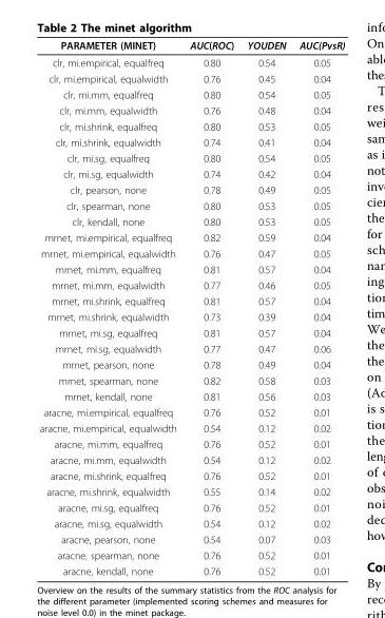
<table><thead><tr><td>PARAMETER (MINET)</td><td>AUC(ROC)</td><td>YOUDEN</td><td>AUC(PvsR)</td></tr></thead><tbody><tr><td>clr, mi.empirical, equalfreq</td><td>0.80</td><td>0.54</td><td>0.05</td></tr><tr><td>clr, mi.empirical, equalwidth</td><td>0.76</td><td>0.45</td><td>0.04</td></tr><tr><td>clr, mi.mm, equalfreq</td><td>0.80</td><td>0.54</td><td>0.05</td></tr><tr><td>clr, mi.mm, equalwidth</td><td>0.76</td><td>0.48</td><td>0.04</td></tr><tr><td>clr, mi.shrink, equalfreq</td><td>0.80</td><td>0.53</td><td>0.05</td></tr><tr><td>clr, mi.shrink, equalwidth</td><td>0.74</td><td>0.41</td><td>0.04</td></tr><tr><td>clr, mi.sg, equalfreq</td><td>0.80</td><td>0.54</td><td>0.05</td></tr><tr><td>clr, mi.sg, equalwidth</td><td>0.74</td><td>0.42</td><td>0.04</td></tr><tr><td>clr, pearson, none</td><td>0.78</td><td>0.49</td><td>0.05</td></tr><tr><td>clr, spearman, none</td><td>0.80</td><td>0.53</td><td>0.05</td></tr><tr><td>clr, kendall, none</td><td>0.80</td><td>0.53</td><td>0.05</td></tr><tr><td>mrnet, mi.empirical, equalfreq</td><td>0.82</td><td>0.59</td><td>0.04</td></tr><tr><td>mrnet, mi.empirical, equalwidth</td><td>0.76</td><td>0.47</td><td>0.05</td></tr><tr><td>mrnet, mi.mm, equalfreq</td><td>0.81</td><td>0.57</td><td>0.04</td></tr><tr><td>mrnet, mi.mm, equalwidth</td><td>0.77</td><td>0.46</td><td>0.05</td></tr><tr><td>mrnet, mi.shrink, equalfreq</td><td>0.81</td><td>0.57</td><td>0.04</td></tr><tr><td>mrnet, mi.shrink, equalwidth</td><td>0.73</td><td>0.39</td><td>0.04</td></tr><tr><td>mrnet, mi.sg, equalfreq</td><td>0.81</td><td>0.57</td><td>0.04</td></tr><tr><td>mrnet, mi.sg, equalwidth</td><td>0.77</td><td>0.47</td><td>0.06</td></tr><tr><td>mrnet, pearson, none</td><td>0.78</td><td>0.49</td><td>0.04</td></tr><tr><td>mrnet, spearman, none</td><td>0.82</td><td>0.58</td><td>0.03</td></tr><tr><td>mrnet, kendall, none</td><td>0.81</td><td>0.56</td><td>0.03</td></tr><tr><td>aracne, mi.empirical, equalfreq</td><td>0.76</td><td>0.52</td><td>0.01</td></tr><tr><td>aracne, mi.empirical, equalwidth</td><td>0.54</td><td>0.12</td><td>0.02</td></tr><tr><td>aracne, mi.mm, equalfreq</td><td>0.76</td><td>0.52</td><td>0.01</td></tr><tr><td>aracne, mi.mm, equalwidth</td><td>0.54</td><td>0.12</td><td>0.02</td></tr><tr><td>aracne, mi.shrink, equalfreq</td><td>0.76</td><td>0.52</td><td>0.01</td></tr><tr><td>aracne, mi.shrink, equalwidth</td><td>0.55</td><td>0.14</td><td>0.02</td></tr><tr><td>aracne, mi.sg, equalfreq</td><td>0.76</td><td>0.52</td><td>0.01</td></tr><tr><td>aracne, mi.sg, equalwidth</td><td>0.54</td><td>0.12</td><td>0.02</td></tr><tr><td>aracne, pearson, none</td><td>0.54</td><td>0.07</td><td>0.03</td></tr><tr><td>aracne, spearman, none</td><td>0.76</td><td>0.52</td><td>0.01</td></tr><tr><td>aracne, kendall, none</td><td>0.76</td><td>0.52</td><td>0.01</td></tr></tbody></table>